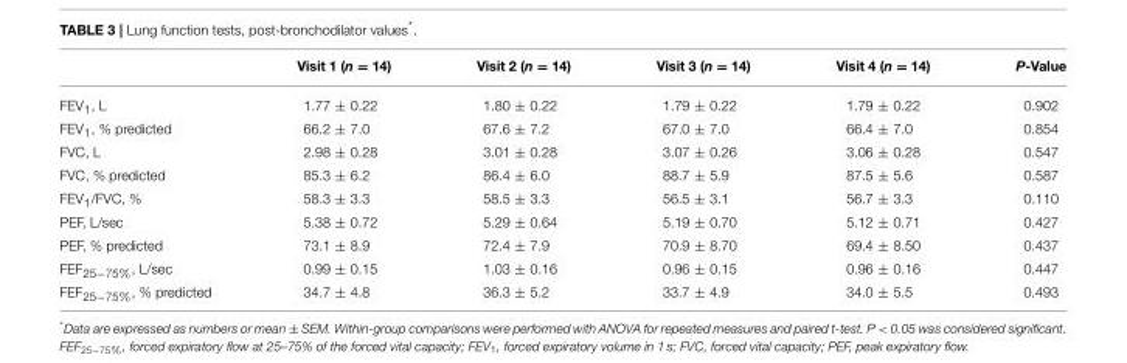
<table><thead><tr><td></td><td>Visit 1 (n = 14)</td><td>Visit 2 (n = 14)</td><td>Visit 3 (n = 14)</td><td>Visit 4 (n = 14)</td><td>P-Value</td></tr></thead><tbody><tr><td>FEV<sub>1</sub>, L</td><td>1.77 ± 0.22</td><td>1.80 ± 0.22</td><td>1.79 ± 0.22</td><td>1.79 ± 0.22</td><td>0.902</td></tr><tr><td>FEV<sub>1</sub>, % predicted</td><td>66.2 ± 7.0</td><td>67.6 ± 7.2</td><td>67.0 ± 7.0</td><td>66.4 ± 7.0</td><td>0.854</td></tr><tr><td>FVC, L</td><td>2.98 ± 0.28</td><td>3.01 ± 0.28</td><td>3.07 ± 0.26</td><td>3.06 ± 0.28</td><td>0.547</td></tr><tr><td>FVC, % predicted</td><td>85.3 ± 6.2</td><td>86.4 ± 6.0</td><td>88.7 ± 5.9</td><td>87.5 ± 5.6</td><td>0.587</td></tr><tr><td>FEV<sub>1</sub>/FVC, %</td><td>58.3 ± 3.3</td><td>58.5 ± 3.3</td><td>56.5 ± 3.1</td><td>56.7 ± 3.3</td><td>0.110</td></tr><tr><td>PEF, L/sec</td><td>5.38 ± 0.72</td><td>5.29 ± 0.64</td><td>5.19 ± 0.70</td><td>5.12 ± 0.71</td><td>0.427</td></tr><tr><td>PEF, % predicted</td><td>73.1 ± 8.9</td><td>72.4 ± 7.9</td><td>70.9 ± 8.70</td><td>69.4 ± 8.50</td><td>0.437</td></tr><tr><td>FEF<sub>25−75%</sub>, L/sec</td><td>0.99 ± 0.15</td><td>1.03 ± 0.16</td><td>0.96 ± 0.15</td><td>0.96 ± 0.16</td><td>0.447</td></tr><tr><td>FEF<sub>25−75%</sub>, % predicted</td><td>34.7 ± 4.8</td><td>36.3 ± 5.2</td><td>33.7 ± 4.9</td><td>34.0 ± 5.5</td><td>0.493</td></tr></tbody></table>